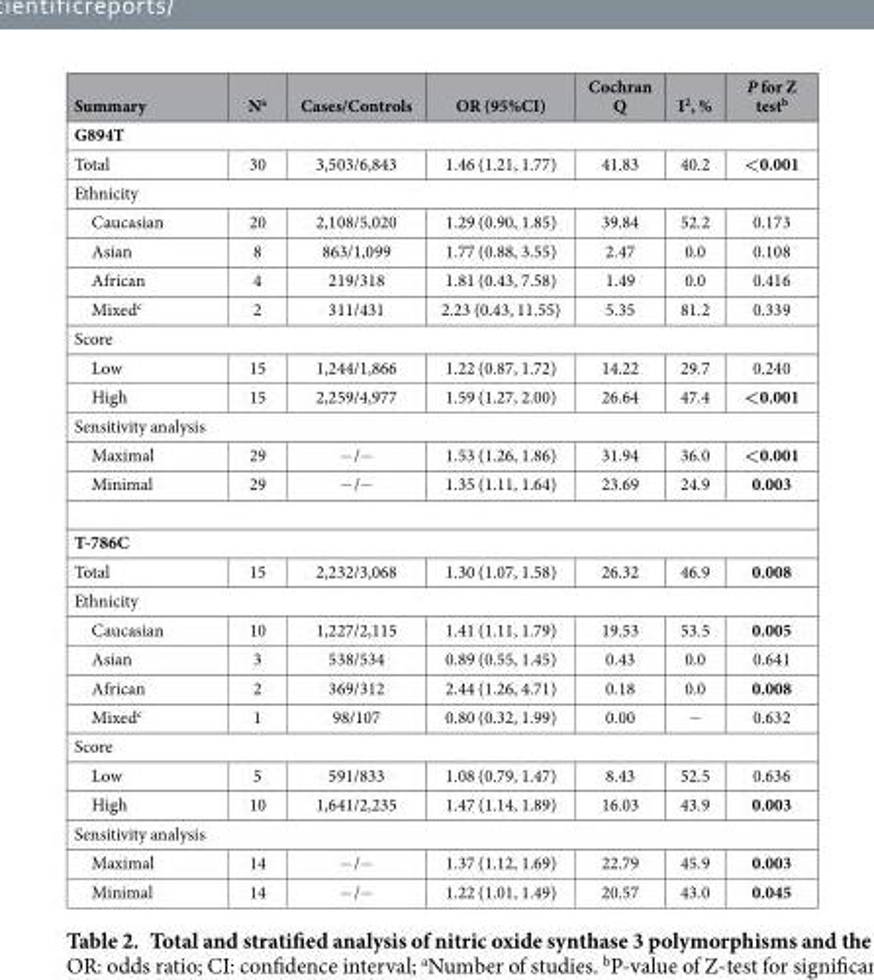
<table><thead><tr><td>Summary</td><td>N<sup>a</sup></td><td>Cases/Controls</td><td>OR (95%CI)</td><td>Cochran Q</td><td>I<sup>2</sup>, %</td><td>P for Z test<sup>b</sup></td></tr></thead><tbody><tr><td colspan="7">G894T</td></tr><tr><td>Total</td><td>30</td><td>3,503/6,843</td><td>1.46 (1.21, 1.77)</td><td>41.83</td><td>40.2</td><td>&lt;0.001</td></tr><tr><td colspan="7">Ethnicity</td></tr><tr><td>Caucasian</td><td>20</td><td>2,108/5,020</td><td>1.29 (0.90, 1.85)</td><td>39.84</td><td>52.2</td><td>0.173</td></tr><tr><td>Asian</td><td>8</td><td>863/1,099</td><td>1.77 (0.88, 3.55)</td><td>2.47</td><td>0.0</td><td>0.108</td></tr><tr><td>African</td><td>4</td><td>219/318</td><td>1.81 (0.43, 7.58)</td><td>1.49</td><td>0.0</td><td>0.416</td></tr><tr><td>Mixed<sup>c</sup></td><td>2</td><td>311/431</td><td>2.23 (0.43, 11.55)</td><td>5.35</td><td>81.2</td><td>0.339</td></tr><tr><td colspan="7">Score</td></tr><tr><td>Low</td><td>15</td><td>1,244/1,866</td><td>1.22 (0.87, 1.72)</td><td>14.22</td><td>29.7</td><td>0.240</td></tr><tr><td>High</td><td>15</td><td>2,259/4,977</td><td>1.59 (1.27, 2.00)</td><td>26.64</td><td>47.4</td><td>&lt;0.001</td></tr><tr><td colspan="7">Sensitivity analysis</td></tr><tr><td>Maximal</td><td>29</td><td>− /−</td><td>1.53 (1.26, 1.86)</td><td>31.94</td><td>36.0</td><td>&lt;0.001</td></tr><tr><td>Minimal</td><td>29</td><td>− /−</td><td>1.35 (1.11, 1.64)</td><td>23.69</td><td>24.9</td><td>0.003</td></tr><tr><td colspan="7">T-786C</td></tr><tr><td>Total</td><td>15</td><td>2,232/3,068</td><td>1.30 (1.07, 1.58)</td><td>26.32</td><td>46.9</td><td>0.008</td></tr><tr><td colspan="7">Ethnicity</td></tr><tr><td>Caucasian</td><td>10</td><td>1,227/2,115</td><td>1.41 (1.11, 1.79)</td><td>19.53</td><td>53.5</td><td>0.005</td></tr><tr><td>Asian</td><td>3</td><td>538/534</td><td>0.89 (0.55, 1.45)</td><td>0.43</td><td>0.0</td><td>0.641</td></tr><tr><td>African</td><td>2</td><td>369/312</td><td>2.44 (1.26, 4.71)</td><td>0.18</td><td>0.0</td><td>0.008</td></tr><tr><td>Mixed<sup>c</sup></td><td>1</td><td>98/107</td><td>0.80 (0.32, 1.99)</td><td>0.00</td><td>−</td><td>0.632</td></tr><tr><td colspan="7">Score</td></tr><tr><td>Low</td><td>5</td><td>591/833</td><td>1.08 (0.79, 1.47)</td><td>8.43</td><td>52.5</td><td>0.636</td></tr><tr><td>High</td><td>10</td><td>1,641/2,235</td><td>1.47 (1.14, 1.89)</td><td>16.03</td><td>43.9</td><td>0.003</td></tr><tr><td colspan="7">Sensitivity analysis</td></tr><tr><td>Maximal</td><td>14</td><td>− /−</td><td>1.37 (1.12, 1.69)</td><td>22.79</td><td>45.9</td><td>0.003</td></tr><tr><td>Minimal</td><td>14</td><td>− /−</td><td>1.22 (1.01, 1.49)</td><td>20.57</td><td>43.0</td><td>0.045</td></tr></tbody></table>